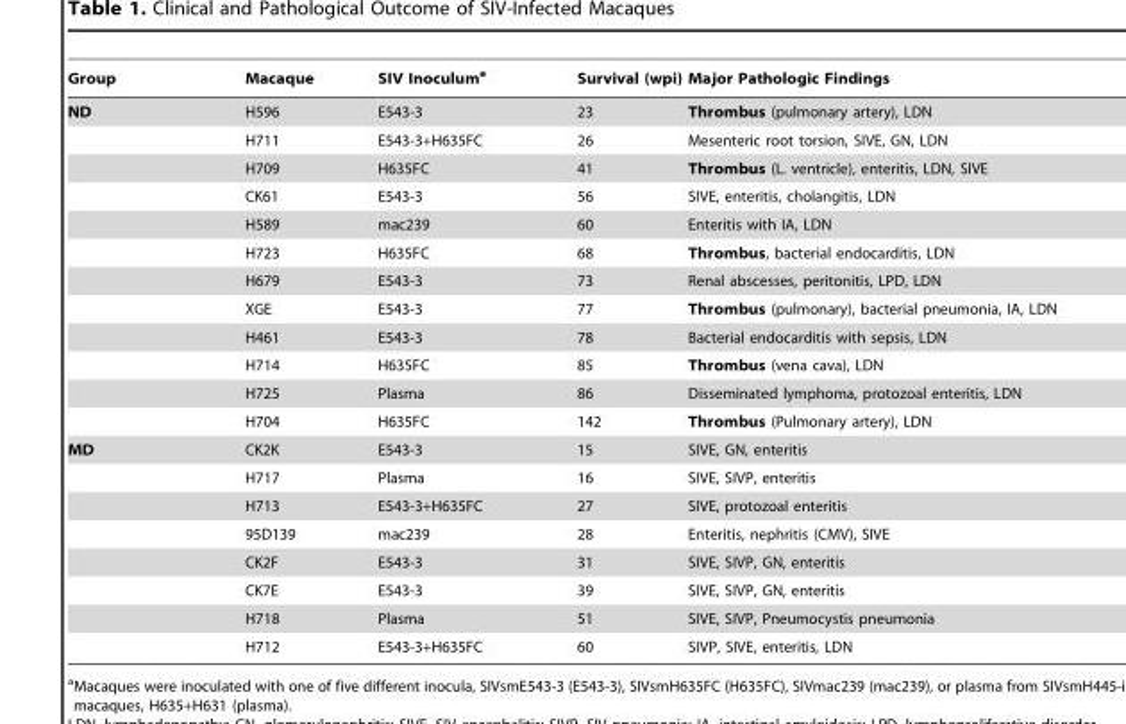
<table><thead><tr><td>Group</td><td>Macaque</td><td>SIV Inoculum<sup>a</sup></td><td>Survival (wpi)</td><td>Major Pathologic Findings</td></tr></thead><tbody><tr><td rowspan="12">ND</td><td>H596</td><td>E543-3</td><td>23</td><td>Thrombus (pulmonary artery), LDN</td></tr><tr><td>H711</td><td>E543-3+H635FC</td><td>26</td><td>Mesenteric root torsion, SIVE, GN, LDN</td></tr><tr><td>H709</td><td>H635FC</td><td>41</td><td>Thrombus (L. ventricle), enteritis, LDN, SIVE</td></tr><tr><td>CK61</td><td>E543-3</td><td>56</td><td>SIVE, enteritis, cholangitis, LDN</td></tr><tr><td>H589</td><td>mac239</td><td>60</td><td>Enteritis with IA, LDN</td></tr><tr><td>H723</td><td>H635FC</td><td>68</td><td>Thrombus, bacterial endocarditis, LDN</td></tr><tr><td>H679</td><td>E543-3</td><td>73</td><td>Renal abscesses, peritonitis, LPD, LDN</td></tr><tr><td>XGE</td><td>E543-3</td><td>77</td><td>Thrombus (pulmonary), bacterial pneumonia, IA, LDN</td></tr><tr><td>H461</td><td>E543-3</td><td>78</td><td>Bacterial endocarditis with sepsis, LDN</td></tr><tr><td>H714</td><td>H635FC</td><td>85</td><td>Thrombus (vena cava), LDN</td></tr><tr><td>H725</td><td>Plasma</td><td>86</td><td>Disseminated lymphoma, protozoal enteritis, LDN</td></tr><tr><td>H704</td><td>H635FC</td><td>142</td><td>Thrombus (Pulmonary artery), LDN</td></tr><tr><td rowspan="8">MD</td><td>CK2K</td><td>E543-3</td><td>15</td><td>SIVE, GN, enteritis</td></tr><tr><td>H717</td><td>Plasma</td><td>16</td><td>SIVE, SIVP, enteritis</td></tr><tr><td>H713</td><td>E543-3+H635FC</td><td>27</td><td>SIVE, protozoal enteritis</td></tr><tr><td>95D139</td><td>mac239</td><td>28</td><td>Enteritis, nephritis (CMV), SIVE</td></tr><tr><td>CK2F</td><td>E543-3</td><td>31</td><td>SIVE, SIVP, GN, enteritis</td></tr><tr><td>CK7E</td><td>E543-3</td><td>39</td><td>SIVE, SIVP, GN, enteritis</td></tr><tr><td>H718</td><td>Plasma</td><td>51</td><td>SIVE, SIVP, Pneumocystis pneumonia</td></tr><tr><td>H712</td><td>E543-3+H635FC</td><td>60</td><td>SIVP, SIVE, enteritis, LDN</td></tr></tbody></table>